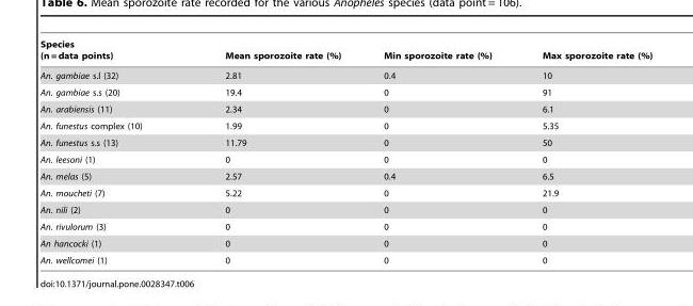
<table><thead><tr><td>Species (n = data points)</td><td>Mean sporozoite rate (%)</td><td>Min sporozoite rate (%)</td><td>Max sporozoite rate (%)</td></tr></thead><tbody><tr><td>An. gambiae s.l (32)</td><td>2.81</td><td>0.4</td><td>10</td></tr><tr><td>An. gambiae s.s (20)</td><td>19.4</td><td>0</td><td>91</td></tr><tr><td>An. arabiensis (11)</td><td>2.34</td><td>0</td><td>6.1</td></tr><tr><td>An. funestus complex (10)</td><td>1.99</td><td>0</td><td>5.35</td></tr><tr><td>An. funestus s.s (13)</td><td>11.79</td><td>0</td><td>50</td></tr><tr><td>An. leesoni (1)</td><td>0</td><td>0</td><td>0</td></tr><tr><td>An. melas (5)</td><td>2.57</td><td>0.4</td><td>6.5</td></tr><tr><td>An. moucheti (7)</td><td>5.22</td><td>0</td><td>21.9</td></tr><tr><td>An. nili (2)</td><td>0</td><td>0</td><td>0</td></tr><tr><td>An. rivulorum (3)</td><td>0</td><td>0</td><td>0</td></tr><tr><td>An hancocki (1)</td><td>0</td><td>0</td><td>0</td></tr><tr><td>An. wellcomei (1)</td><td>0</td><td>0</td><td>0</td></tr></tbody></table>